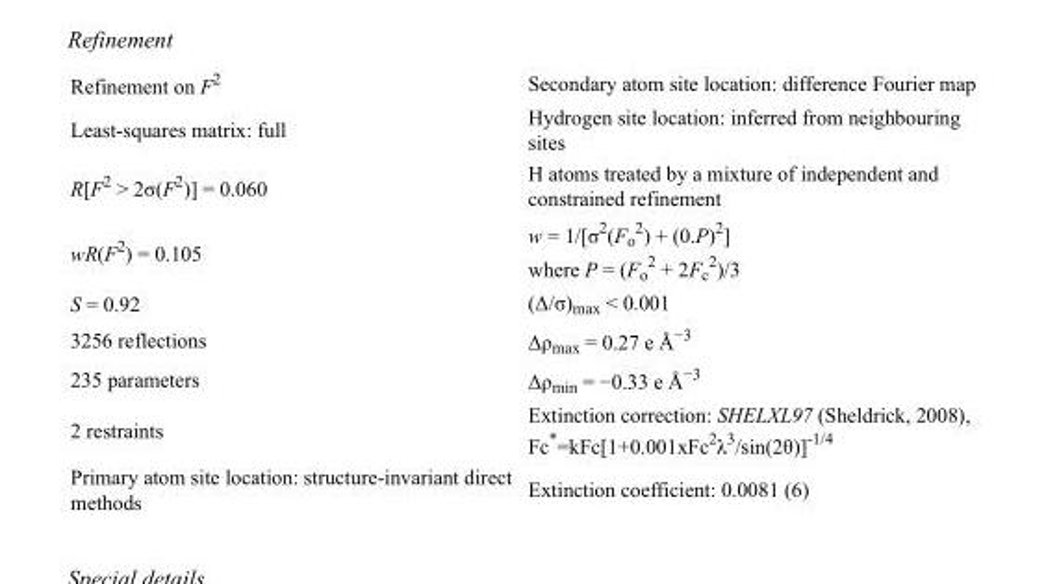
<table><tbody><tr><td>Refinement on F<sup>2</sup></td><td>Secondary atom site location: difference Fourier map</td></tr><tr><td>Least-squares matrix: full</td><td>Hydrogen site location: inferred from neighbouring sites</td></tr><tr><td>R[F<sup>2</sup> &gt; 2σ(F<sup>2</sup>)] = 0.060</td><td>H atoms treated by a mixture of independent and constrained refinement</td></tr><tr><td>wR(F<sup>2</sup>) = 0.105</td><td>w = 1/[σ<sup>2</sup>(F<sub>o</sub> <sup>2</sup>) + (0.P)<sup>2</sup>] where P = (F<sub>o</sub> <sup>2</sup> + 2F<sub>c</sub> <sup>2</sup>)/3</td></tr><tr><td>S = 0.92</td><td>(Δ/σ)<sub>max</sub> &lt; 0.001</td></tr><tr><td>3256 reflections</td><td>Δρ<sub>max</sub> = 0.27 e Å<sup>−3</sup></td></tr><tr><td>235 parameters</td><td>Δρ<sub>min</sub> = −0.33 e Å<sup>−3</sup></td></tr><tr><td>2 restraints</td><td>Extinction correction: SHELXL97 (Sheldrick, 2008), Fc*=kFc[1+0.001xFc<sup>2</sup>λ<sup>3</sup>/sin(2θ)]<sup>-1/4</sup></td></tr><tr><td>Primary atom site location: structure-invariant direct methods</td><td>Extinction coefficient: 0.0081 (6)</td></tr></tbody></table>